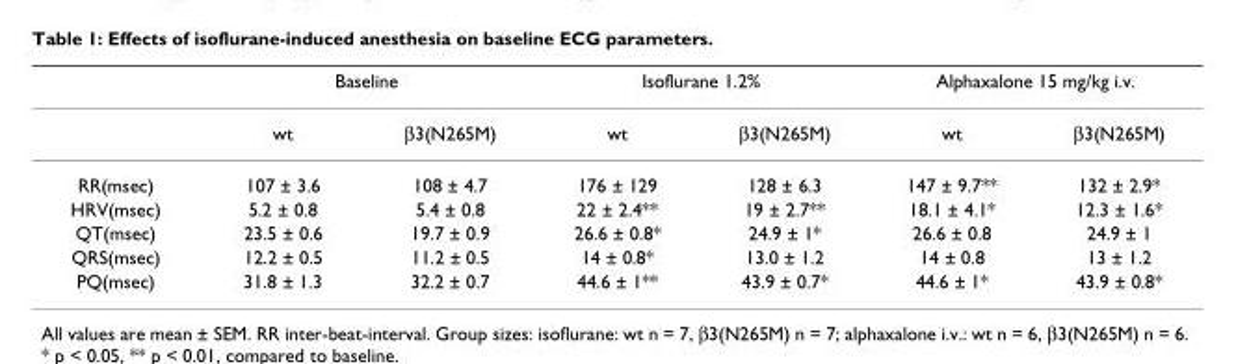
<table><thead><tr><td rowspan="2"></td><td colspan="2">Baseline</td><td colspan="2">Isoflurane 1.2%</td><td colspan="2">Alphaxalone 15 mg/kg i.v.</td></tr><tr><td>wt</td><td>β3(N265M)</td><td>wt</td><td>β3(N265M)</td><td>wt</td><td>β3(N265M)</td></tr></thead><tbody><tr><td>RR(msec)</td><td>107 ± 3.6</td><td>108 ± 4.7</td><td>176 ± 129</td><td>128 ± 6.3</td><td>147 ± 9.7**</td><td>132 ± 2.9*</td></tr><tr><td>HRV(msec)</td><td>5.2 ± 0.8</td><td>5.4 ± 0.8</td><td>22 ± 2.4**</td><td>19 ± 2.7**</td><td>18.1 ± 4.1*</td><td>12.3 ± 1.6*</td></tr><tr><td>QT(msec)</td><td>23.5 ± 0.6</td><td>19.7 ± 0.9</td><td>26.6 ± 0.8*</td><td>24.9 ± 1*</td><td>26.6 ± 0.8</td><td>24.9 ± 1</td></tr><tr><td>QRS(msec)</td><td>12.2 ± 0.5</td><td>11.2 ± 0.5</td><td>14 ± 0.8*</td><td>13.0 ± 1.2</td><td>14 ± 0.8</td><td>13 ± 1.2</td></tr><tr><td>PQ(msec)</td><td>31.8 ± 1.3</td><td>32.2 ± 0.7</td><td>44.6 ± 1**</td><td>43.9 ± 0.7*</td><td>44.6 ± 1*</td><td>43.9 ± 0.8*</td></tr></tbody></table>